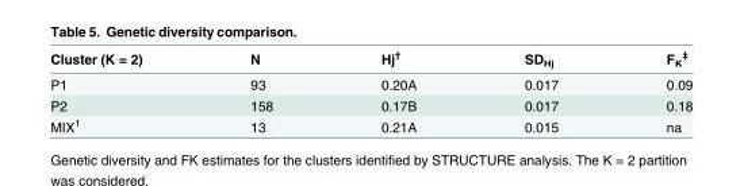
<table><thead><tr><td>Cluster (K = 2)</td><td>N</td><td>Hj<sup>†</sup></td><td>SD<sub>Hj</sub></td><td>F<sub>K</sub> <sup>‡</sup></td></tr></thead><tbody><tr><td>P1</td><td>93</td><td>0.20A</td><td>0.017</td><td>0.09</td></tr><tr><td>P2</td><td>158</td><td>0.17B</td><td>0.017</td><td>0.18</td></tr><tr><td>MIX<sup>1</sup></td><td>13</td><td>0.21A</td><td>0.015</td><td>na</td></tr></tbody></table>